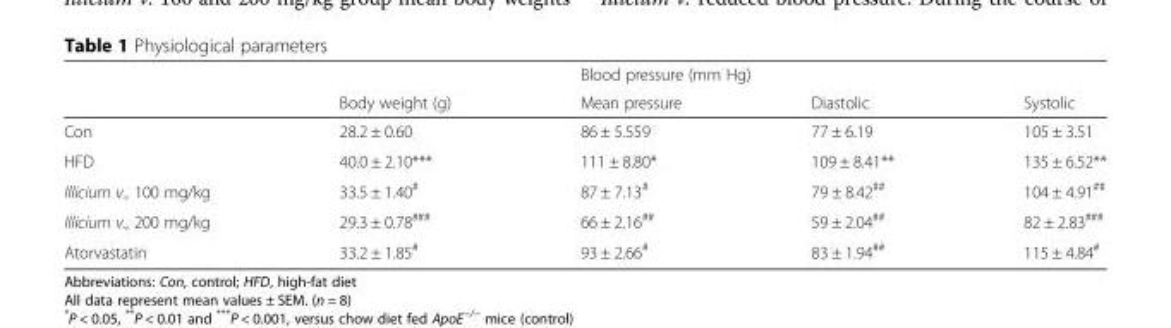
<table><thead><tr><td rowspan="2"></td><td rowspan="2">Body weight (g)</td><td colspan="3">Blood pressure (mm Hg)</td></tr><tr><td>Mean pressure</td><td>Diastolic</td><td>Systolic</td></tr></thead><tbody><tr><td>Con</td><td>28.2 ± 0.60</td><td>86 ± 5.559</td><td>77 ± 6.19</td><td>105 ± 3.51</td></tr><tr><td>HFD</td><td>40.0 ± 2.10***</td><td>111 ± 8.80*</td><td>109 ± 8.41**</td><td>135 ± 6.52**</td></tr><tr><td>Illicium v., 100 mg/kg</td><td>33.5 ± 1.40<sup>#</sup></td><td>87 ± 7.13<sup>#</sup></td><td>79 ± 8.42<sup>##</sup></td><td>104 ± 4.91<sup>##</sup></td></tr><tr><td>Illicium v., 200 mg/kg</td><td>29.3 ± 0.78<sup>###</sup></td><td>66 ± 2.16<sup>##</sup></td><td>59 ± 2.04<sup>##</sup></td><td>82 ± 2.83<sup>###</sup></td></tr><tr><td>Atorvastatin</td><td>33.2 ± 1.85<sup>#</sup></td><td>93 ± 2.66<sup>#</sup></td><td>83 ± 1.94<sup>##</sup></td><td>115 ± 4.84<sup>#</sup></td></tr></tbody></table>